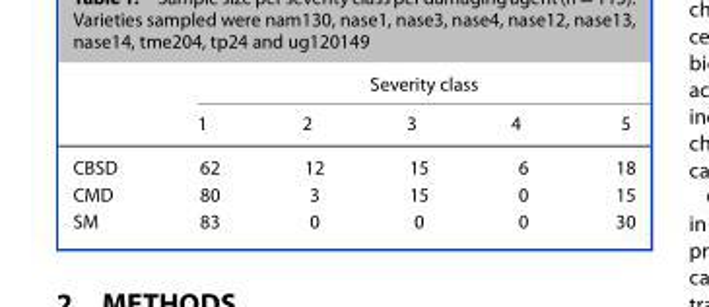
<table><thead><tr><td rowspan="2"></td><td colspan="5">Severity class</td></tr><tr><td>1</td><td>2</td><td>3</td><td>4</td><td>5</td></tr></thead><tbody><tr><td>CBSD</td><td>62</td><td>12</td><td>15</td><td>6</td><td>18</td></tr><tr><td>CMD</td><td>80</td><td>3</td><td>15</td><td>0</td><td>15</td></tr><tr><td>SM</td><td>83</td><td>0</td><td>0</td><td>0</td><td>30</td></tr></tbody></table>